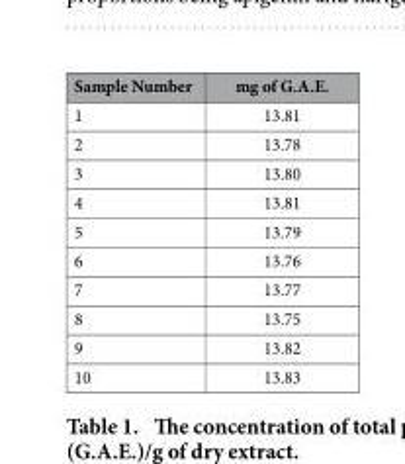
<table><thead><tr><td>Sample Number</td><td>mg of G.A.E.</td></tr></thead><tbody><tr><td>1</td><td>13.81</td></tr><tr><td>2</td><td>13.78</td></tr><tr><td>3</td><td>13.80</td></tr><tr><td>4</td><td>13.81</td></tr><tr><td>5</td><td>13.79</td></tr><tr><td>6</td><td>13.76</td></tr><tr><td>7</td><td>13.77</td></tr><tr><td>8</td><td>13.75</td></tr><tr><td>9</td><td>13.82</td></tr><tr><td>10</td><td>13.83</td></tr></tbody></table>